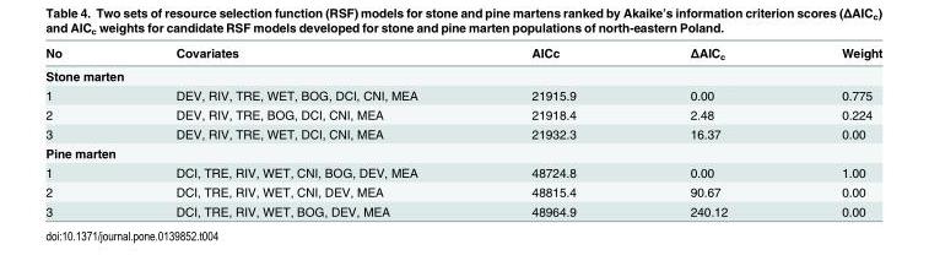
<table><thead><tr><td>No</td><td>Covariates</td><td>AICc</td><td>ΔAIC<sub>c</sub></td><td>Weight</td></tr></thead><tbody><tr><td colspan="5">Stone marten</td></tr><tr><td>1</td><td>DEV, RIV, TRE, WET, BOG, DCI, CNI, MEA</td><td>21915.9</td><td>0.00</td><td>0.775</td></tr><tr><td>2</td><td>DEV, RIV, TRE, BOG, DCI, CNI, MEA</td><td>21918.4</td><td>2.48</td><td>0.224</td></tr><tr><td>3</td><td>DEV, RIV, TRE, WET, DCI, CNI, MEA</td><td>21932.3</td><td>16.37</td><td>0.00</td></tr><tr><td colspan="5">Pine marten</td></tr><tr><td>1</td><td>DCI, TRE, RIV, WET, CNI, BOG, DEV, MEA</td><td>48724.8</td><td>0.00</td><td>1.00</td></tr><tr><td>2</td><td>DCI, TRE, RIV, WET, CNI, DEV, MEA</td><td>48815.4</td><td>90.67</td><td>0.00</td></tr><tr><td>3</td><td>DCI, TRE, RIV, WET, BOG, DEV, MEA</td><td>48964.9</td><td>240.12</td><td>0.00</td></tr></tbody></table>